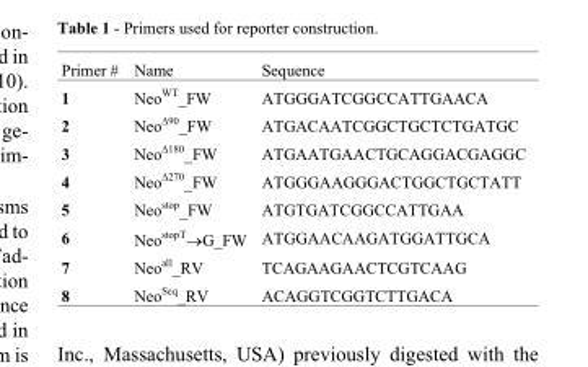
<table><thead><tr><td>Primer #</td><td>Name</td><td>Sequence</td></tr></thead><tbody><tr><td>1</td><td>Neo<sup>WT</sup>_FW</td><td>ATGGGATCGGCCATTGAACA</td></tr><tr><td>2</td><td>Neo<sup>Δ90</sup>_FW</td><td>ATGACAATCGGCTGCTCTGATGC</td></tr><tr><td>3</td><td>Neo<sup>Δ180</sup>_FW</td><td>ATGAATGAACTGCAGGACGAGGC</td></tr><tr><td>4</td><td>Neo<sup>Δ270</sup>_FW</td><td>ATGGGAAGGGACTGGCTGCTATT</td></tr><tr><td>5</td><td>Neo<sup>stop</sup>_FW</td><td>ATGTGATCGGCCATTGAA</td></tr><tr><td>6</td><td>Neo<sup>stopT</sup>→G_FW</td><td>ATGGAACAAGATGGATTGCA</td></tr><tr><td>7</td><td>Neo<sup>all</sup>_RV</td><td>TCAGAAGAACTCGTCAAG</td></tr><tr><td>8</td><td>Neo<sup>Seq</sup>_RV</td><td>ACAGGTCGGTCTTGACA</td></tr></tbody></table>